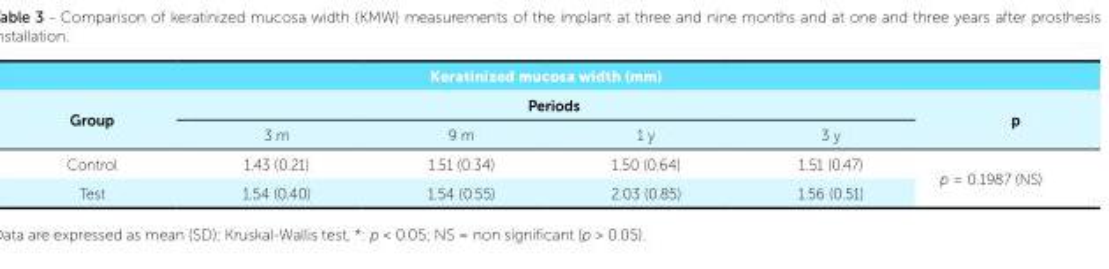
<table><tbody><tr><td colspan="6">Keratinized mucosa width (mm)</td></tr><tr><td rowspan="2">Group</td><td colspan="4">Periods</td><td rowspan="2">p</td></tr><tr><td>3 m</td><td>9 m</td><td>1 y</td><td>3 y</td></tr><tr><td>Control</td><td>1.43 (0.21)</td><td>1.51 (0.34)</td><td>1.50 (0.64)</td><td>1.51 (0.47)</td><td rowspan="2">p = 0.1987 (NS)</td></tr><tr><td>Test</td><td>1.54 (0.40)</td><td>1.54 (0.55)</td><td>2.03 (0.85)</td><td>1.56 (0.51)</td></tr></tbody></table>